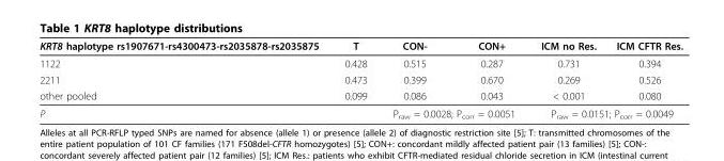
<table><thead><tr><td>KRT8 haplotype rs1907671-rs4300473-rs2035878-rs2035875</td><td>T</td><td>CON-</td><td>CON+</td><td>ICM no Res.</td><td>ICM CFTR Res.</td></tr></thead><tbody><tr><td>1122</td><td>0.428</td><td>0.515</td><td>0.287</td><td>0.731</td><td>0.394</td></tr><tr><td>2211</td><td>0.473</td><td>0.399</td><td>0.670</td><td>0.269</td><td>0.526</td></tr><tr><td>other pooled</td><td>0.099</td><td>0.086</td><td>0.043</td><td>&lt; 0.001</td><td>0.080</td></tr><tr><td>P</td><td></td><td colspan="2">P<sub>raw</sub> = 0.0028; P<sub>corr</sub> = 0.0051</td><td colspan="2">P<sub>raw</sub> = 0.0151; P<sub>corr</sub> = 0.0049</td></tr></tbody></table>